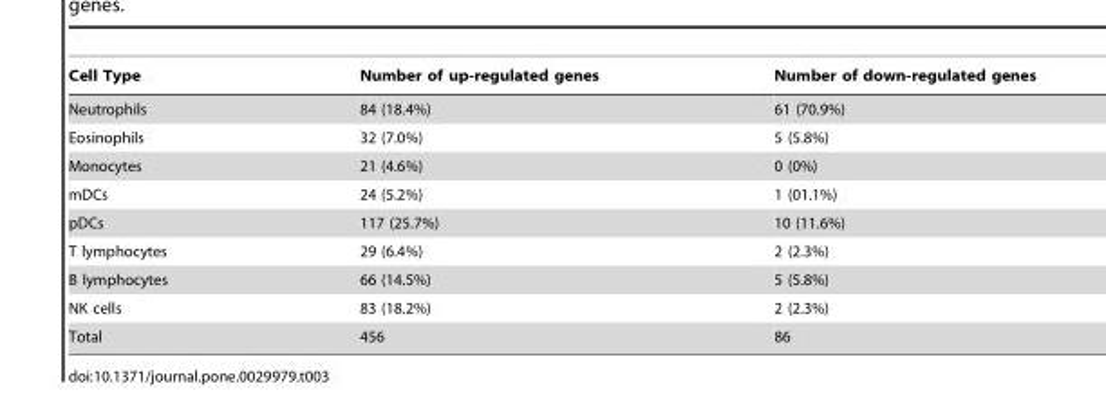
<table><thead><tr><td>Cell Type</td><td>Number of up-regulated genes</td><td>Number of down-regulated genes</td></tr></thead><tbody><tr><td>Neutrophils</td><td>84 (18.4%)</td><td>61 (70.9%)</td></tr><tr><td>Eosinophils</td><td>32 (7.0%)</td><td>5 (5.8%)</td></tr><tr><td>Monocytes</td><td>21 (4.6%)</td><td>0 (0%)</td></tr><tr><td>mDCs</td><td>24 (5.2%)</td><td>1 (01.1%)</td></tr><tr><td>pDCs</td><td>117 (25.7%)</td><td>10 (11.6%)</td></tr><tr><td>T lymphocytes</td><td>29 (6.4%)</td><td>2 (2.3%)</td></tr><tr><td>B lymphocytes</td><td>66 (14.5%)</td><td>5 (5.8%)</td></tr><tr><td>NK cells</td><td>83 (18.2%)</td><td>2 (2.3%)</td></tr><tr><td>Total</td><td>456</td><td>86</td></tr></tbody></table>